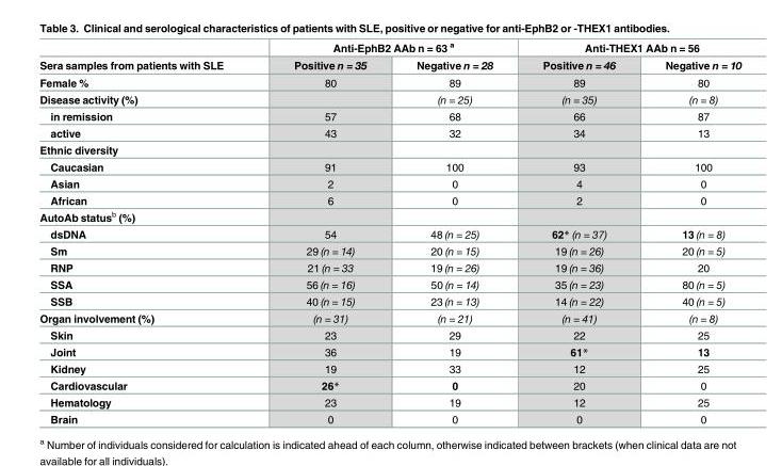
<table><thead><tr><td rowspan="2">Sera samples from patients with SLE</td><td colspan="2">Anti-EphB2 AAb n = 63 <sup>a</sup></td><td colspan="2">Anti-THEX1 AAb n = 56</td></tr><tr><td>Positive n = 35</td><td>Negative n = 28</td><td>Positive n = 46</td><td>Negative n = 10</td></tr></thead><tbody><tr><td>Female %</td><td>80</td><td>89</td><td>89</td><td>80</td></tr><tr><td>Disease activity (%)</td><td></td><td>(n = 25)</td><td>(n = 35)</td><td>(n = 8)</td></tr><tr><td>in remission</td><td>57</td><td>68</td><td>66</td><td>87</td></tr><tr><td>active</td><td>43</td><td>32</td><td>34</td><td>13</td></tr><tr><td colspan="5">Ethnic diversity</td></tr><tr><td>Caucasian</td><td>91</td><td>100</td><td>93</td><td>100</td></tr><tr><td>Asian</td><td>2</td><td>0</td><td>4</td><td>0</td></tr><tr><td>African</td><td>6</td><td>0</td><td>2</td><td>0</td></tr><tr><td colspan="5">AutoAb status<sup>b</sup> (%)</td></tr><tr><td>dsDNA</td><td>54</td><td>48 (n = 25)</td><td>62* (n = 37)</td><td>13 (n = 8)</td></tr><tr><td>Sm</td><td>29 (n = 14)</td><td>20 (n = 15)</td><td>19 (n = 26)</td><td>20 (n = 5)</td></tr><tr><td>RNP</td><td>21 (n = 33</td><td>19 (n = 26)</td><td>19 (n = 36)</td><td>20</td></tr><tr><td>SSA</td><td>56 (n = 16)</td><td>50 (n = 14)</td><td>35 (n = 23)</td><td>80 (n = 5)</td></tr><tr><td>SSB</td><td>40 (n = 15)</td><td>23 (n = 13)</td><td>14 (n = 22)</td><td>40 (n = 5)</td></tr><tr><td>Organ involvement (%)</td><td>(n = 31)</td><td>(n = 21)</td><td>(n = 41)</td><td>(n = 8)</td></tr><tr><td>Skin</td><td>23</td><td>29</td><td>22</td><td>25</td></tr><tr><td>Joint</td><td>36</td><td>19</td><td>61*</td><td>13</td></tr><tr><td>Kidney</td><td>19</td><td>33</td><td>12</td><td>25</td></tr><tr><td>Cardiovascular</td><td>26*</td><td>0</td><td>20</td><td>0</td></tr><tr><td>Hematology</td><td>23</td><td>19</td><td>12</td><td>25</td></tr><tr><td>Brain</td><td>0</td><td>0</td><td>0</td><td>0</td></tr></tbody></table>